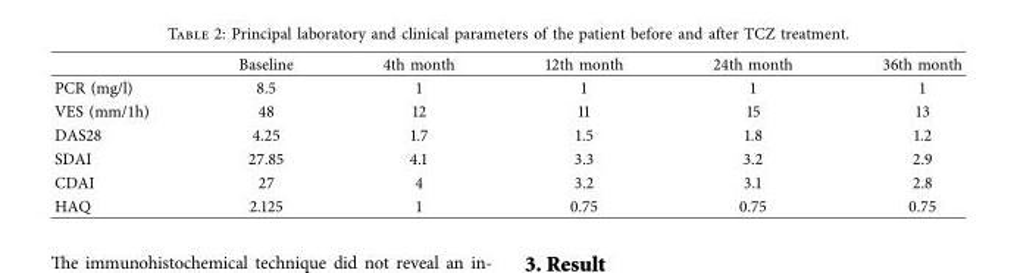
<table><thead><tr><td></td><td>Baseline</td><td>4th month</td><td>12th month</td><td>24th month</td><td>36th month</td></tr></thead><tbody><tr><td>PCR (mg/l)</td><td>8.5</td><td>1</td><td>1</td><td>1</td><td>1</td></tr><tr><td>VES (mm/1h)</td><td>48</td><td>12</td><td>11</td><td>15</td><td>13</td></tr><tr><td>DAS28</td><td>4.25</td><td>1.7</td><td>1.5</td><td>1.8</td><td>1.2</td></tr><tr><td>SDAI</td><td>27.85</td><td>4.1</td><td>3.3</td><td>3.2</td><td>2.9</td></tr><tr><td>CDAI</td><td>27</td><td>4</td><td>3.2</td><td>3.1</td><td>2.8</td></tr><tr><td>HAQ</td><td>2.125</td><td>1</td><td>0.75</td><td>0.75</td><td>0.75</td></tr></tbody></table>